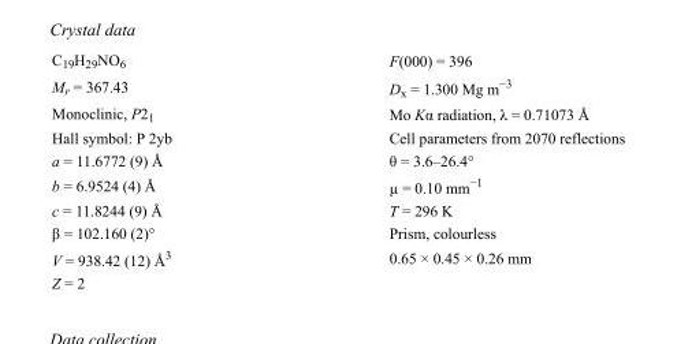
<table><tbody><tr><td>C<sub>19</sub>H<sub>29</sub>NO<sub>6</sub></td><td>F(000) = 396</td></tr><tr><td>M<sub>r</sub> = 367.43</td><td>D<sub>x</sub> = 1.300 Mg m<sup>−3</sup></td></tr><tr><td>Monoclinic, P2<sub>1</sub></td><td>Mo Kα radiation, λ = 0.71073 Å</td></tr><tr><td>Hall symbol: P 2yb</td><td>Cell parameters from 2070 reflections</td></tr><tr><td>a = 11.6772 (9) Å</td><td>θ = 3.6–26.4°</td></tr><tr><td>b = 6.9524 (4) Å</td><td>µ = 0.10 mm<sup>−1</sup></td></tr><tr><td>c = 11.8244 (9) Å</td><td>T = 296 K</td></tr><tr><td>β = 102.160 (2)°</td><td>Prism, colourless</td></tr><tr><td>V = 938.42 (12) Å<sup>3</sup></td><td>0.65 × 0.45 × 0.26 mm</td></tr><tr><td>Z = 2</td><td></td></tr></tbody></table>